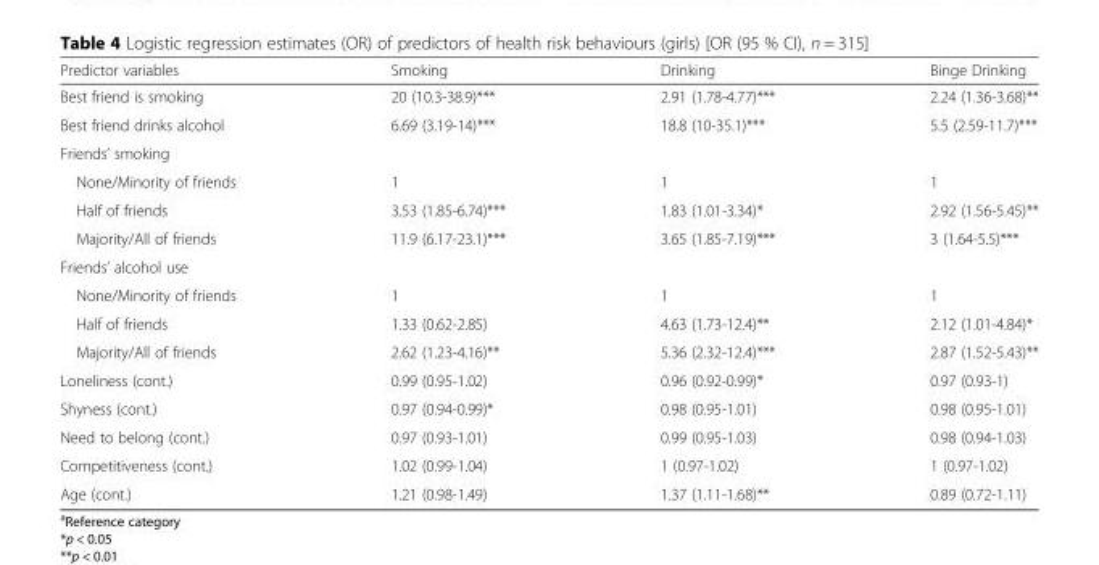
<table><thead><tr><td>Predictor variables</td><td>Smoking</td><td>Drinking</td><td>Binge Drinking</td></tr></thead><tbody><tr><td>Best friend is smoking</td><td>20 (10.3-38.9)***</td><td>2.91 (1.78-4.77)***</td><td>2.24 (1.36-3.68)**</td></tr><tr><td>Best friend drinks alcohol</td><td>6.69 (3.19-14)***</td><td>18.8 (10-35.1)***</td><td>5.5 (2.59-11.7)***</td></tr><tr><td colspan="4">Friends’ smoking</td></tr><tr><td>None/Minority of friends</td><td>1</td><td>1</td><td>1</td></tr><tr><td>Half of friends</td><td>3.53 (1.85-6.74)***</td><td>1.83 (1.01-3.34)*</td><td>2.92 (1.56-5.45)**</td></tr><tr><td>Majority/All of friends</td><td>11.9 (6.17-23.1)***</td><td>3.65 (1.85-7.19)***</td><td>3 (1.64-5.5)***</td></tr><tr><td colspan="4">Friends’ alcohol use</td></tr><tr><td>None/Minority of friends</td><td>1</td><td>1</td><td>1</td></tr><tr><td>Half of friends</td><td>1.33 (0.62-2.85)</td><td>4.63 (1.73-12.4)**</td><td>2.12 (1.01-4.84)*</td></tr><tr><td>Majority/All of friends</td><td>2.62 (1.23-4.16)**</td><td>5.36 (2.32-12.4)***</td><td>2.87 (1.52-5.43)**</td></tr><tr><td>Loneliness (cont.)</td><td>0.99 (0.95-1.02)</td><td>0.96 (0.92-0.99)*</td><td>0.97 (0.93-1)</td></tr><tr><td>Shyness (cont.)</td><td>0.97 (0.94-0.99)*</td><td>0.98 (0.95-1.01)</td><td>0.98 (0.95-1.01)</td></tr><tr><td>Need to belong (cont.)</td><td>0.97 (0.93-1.01)</td><td>0.99 (0.95-1.03)</td><td>0.98 (0.94-1.03)</td></tr><tr><td>Competitiveness (cont.)</td><td>1.02 (0.99-1.04)</td><td>1 (0.97-1.02)</td><td>1 (0.97-1.02)</td></tr><tr><td>Age (cont.)</td><td>1.21 (0.98-1.49)</td><td>1.37 (1.11-1.68)**</td><td>0.89 (0.72-1.11)</td></tr></tbody></table>